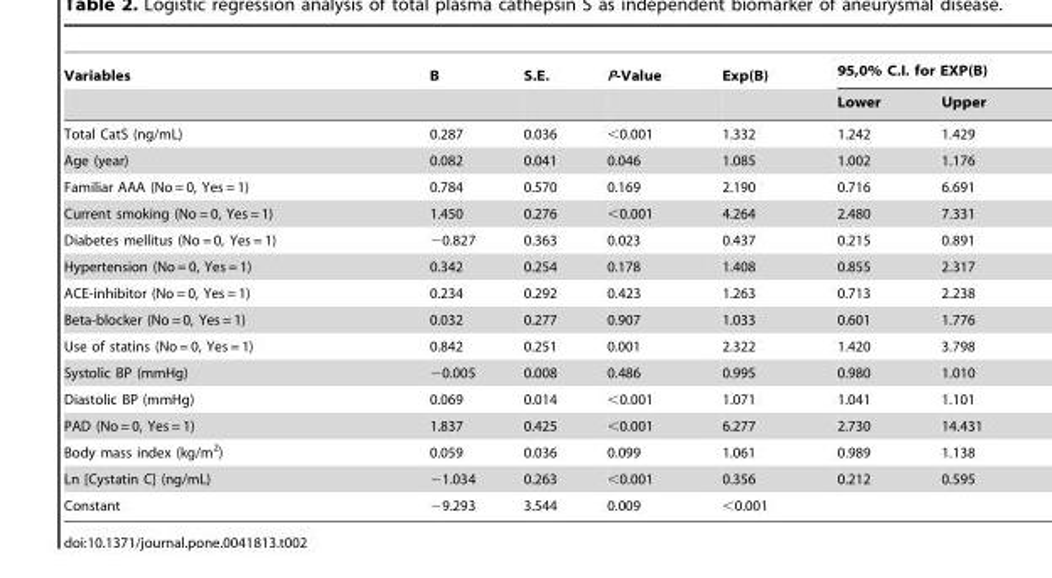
<table><thead><tr><td rowspan="2">Variables</td><td rowspan="2">B</td><td rowspan="2">S.E.</td><td rowspan="2">P-Value</td><td rowspan="2">Exp(B)</td><td colspan="2">95,0% C.I. for EXP(B)</td></tr><tr><td>Lower</td><td>Upper</td></tr></thead><tbody><tr><td>Total CatS (ng/mL)</td><td>0.287</td><td>0.036</td><td>&lt;0.001</td><td>1.332</td><td>1.242</td><td>1.429</td></tr><tr><td>Age (year)</td><td>0.082</td><td>0.041</td><td>0.046</td><td>1.085</td><td>1.002</td><td>1.176</td></tr><tr><td>Familiar AAA (No = 0, Yes = 1)</td><td>0.784</td><td>0.570</td><td>0.169</td><td>2.190</td><td>0.716</td><td>6.691</td></tr><tr><td>Current smoking (No = 0, Yes = 1)</td><td>1.450</td><td>0.276</td><td>&lt;0.001</td><td>4.264</td><td>2.480</td><td>7.331</td></tr><tr><td>Diabetes mellitus (No = 0, Yes = 1)</td><td>−0.827</td><td>0.363</td><td>0.023</td><td>0.437</td><td>0.215</td><td>0.891</td></tr><tr><td>Hypertension (No = 0, Yes = 1)</td><td>0.342</td><td>0.254</td><td>0.178</td><td>1.408</td><td>0.855</td><td>2.317</td></tr><tr><td>ACE-inhibitor (No = 0, Yes = 1)</td><td>0.234</td><td>0.292</td><td>0.423</td><td>1.263</td><td>0.713</td><td>2.238</td></tr><tr><td>Beta-blocker (No = 0, Yes = 1)</td><td>0.032</td><td>0.277</td><td>0.907</td><td>1.033</td><td>0.601</td><td>1.776</td></tr><tr><td>Use of statins (No = 0, Yes = 1)</td><td>0.842</td><td>0.251</td><td>0.001</td><td>2.322</td><td>1.420</td><td>3.798</td></tr><tr><td>Systolic BP (mmHg)</td><td>−0.005</td><td>0.008</td><td>0.486</td><td>0.995</td><td>0.980</td><td>1.010</td></tr><tr><td>Diastolic BP (mmHg)</td><td>0.069</td><td>0.014</td><td>&lt;0.001</td><td>1.071</td><td>1.041</td><td>1.101</td></tr><tr><td>PAD (No = 0, Yes = 1)</td><td>1.837</td><td>0.425</td><td>&lt;0.001</td><td>6.277</td><td>2.730</td><td>14.431</td></tr><tr><td>Body mass index (kg/m<sup>2</sup>)</td><td>0.059</td><td>0.036</td><td>0.099</td><td>1.061</td><td>0.989</td><td>1.138</td></tr><tr><td>Ln [Cystatin C] (ng/mL)</td><td>−1.034</td><td>0.263</td><td>&lt;0.001</td><td>0.356</td><td>0.212</td><td>0.595</td></tr><tr><td>Constant</td><td>−9.293</td><td>3.544</td><td>0.009</td><td>&lt;0.001</td><td></td><td></td></tr></tbody></table>